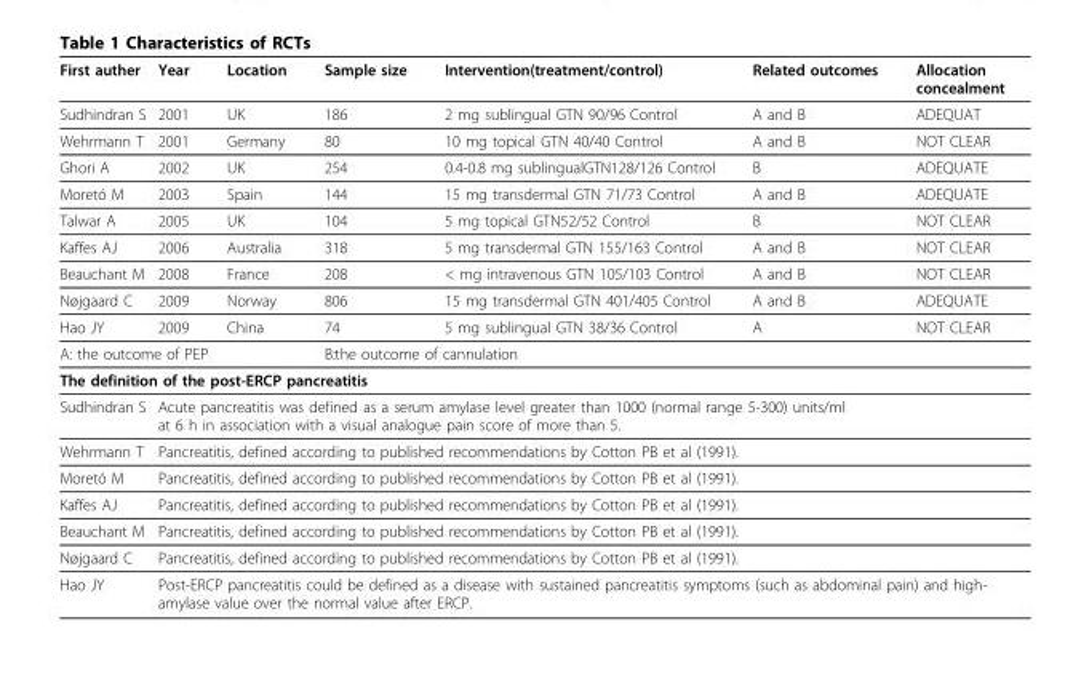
<table><thead><tr><td>First auther</td><td>Year</td><td>Location</td><td>Sample size</td><td>Intervention(treatment/control)</td><td>Related outcomes</td><td>Allocation concealment</td></tr></thead><tbody><tr><td>Sudhindran S</td><td>2001</td><td>UK</td><td>186</td><td>2 mg sublingual GTN 90/96 Control</td><td>A and B</td><td>ADEQUAT</td></tr><tr><td>Wehrmann T</td><td>2001</td><td>Germany</td><td>80</td><td>10 mg topical GTN 40/40 Control</td><td>A and B</td><td>NOT CLEAR</td></tr><tr><td>Ghori A</td><td>2002</td><td>UK</td><td>254</td><td>0.4-0.8 mg sublingualGTN128/126 Control</td><td>B</td><td>ADEQUATE</td></tr><tr><td>Moretó M</td><td>2003</td><td>Spain</td><td>144</td><td>15 mg transdermal GTN 71/73 Control</td><td>A and B</td><td>ADEQUATE</td></tr><tr><td>Talwar A</td><td>2005</td><td>UK</td><td>104</td><td>5 mg topical GTN52/52 Control</td><td>B</td><td>NOT CLEAR</td></tr><tr><td>Kaffes AJ</td><td>2006</td><td>Australia</td><td>318</td><td>5 mg transdermal GTN 155/163 Control</td><td>A and B</td><td>NOT CLEAR</td></tr><tr><td>Beauchant M</td><td>2008</td><td>France</td><td>208</td><td>&lt; mg intravenous GTN 105/103 Control</td><td>A and B</td><td>NOT CLEAR</td></tr><tr><td>Nøjgaard C</td><td>2009</td><td>Norway</td><td>806</td><td>15 mg transdermal GTN 401/405 Control</td><td>A and B</td><td>ADEQUATE</td></tr><tr><td>Hao JY</td><td>2009</td><td>China</td><td>74</td><td>5 mg sublingual GTN 38/36 Control</td><td>A</td><td>NOT CLEAR</td></tr><tr><td colspan="3">A: the outcome of PEP</td><td colspan="4">B:the outcome of cannulation</td></tr><tr><td colspan="7">The definition of the post-ERCP pancreatitis</td></tr><tr><td>Sudhindran S</td><td colspan="6">Acute pancreatitis was defined as a serum amylase level greater than 1000 (normal range 5-300) units/ml at 6 h in association with a visual analogue pain score of more than 5.</td></tr><tr><td>Wehrmann T</td><td colspan="6">Pancreatitis, defined according to published recommendations by Cotton PB et al (1991).</td></tr><tr><td>Moretó M</td><td colspan="6">Pancreatitis, defined according to published recommendations by Cotton PB et al (1991).</td></tr><tr><td>Kaffes AJ</td><td colspan="6">Pancreatitis, defined according to published recommendations by Cotton PB et al (1991).</td></tr><tr><td>Beauchant M</td><td colspan="6">Pancreatitis, defined according to published recommendations by Cotton PB et al (1991).</td></tr><tr><td>Nøjgaard C</td><td colspan="6">Pancreatitis, defined according to published recommendations by Cotton PB et al (1991).</td></tr><tr><td>Hao JY</td><td colspan="6">Post-ERCP pancreatitis could be defined as a disease with sustained pancreatitis symptoms (such as abdominal pain) and high- amylase value over the normal value after ERCP.</td></tr></tbody></table>